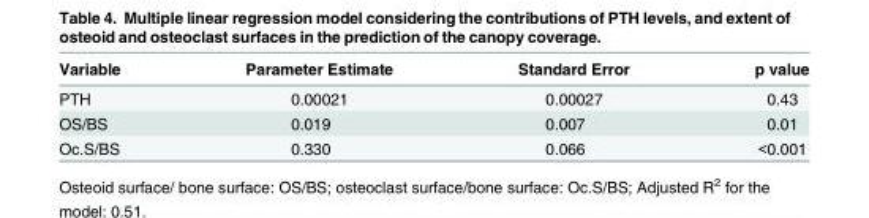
<table><thead><tr><td>Variable</td><td>Parameter Estimate</td><td>Standard Error</td><td>p value</td></tr></thead><tbody><tr><td>PTH</td><td>0.00021</td><td>0.00027</td><td>0.43</td></tr><tr><td>OS/BS</td><td>0.019</td><td>0.007</td><td>0.01</td></tr><tr><td>Oc.S/BS</td><td>0.330</td><td>0.066</td><td>&lt;0.001</td></tr></tbody></table>